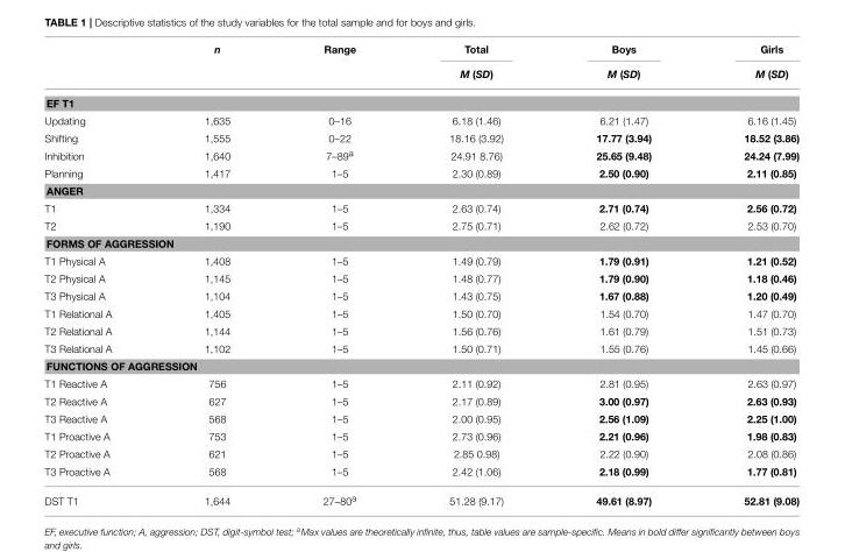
<table><thead><tr><td rowspan="2"></td><td rowspan="2">n</td><td rowspan="2">Range</td><td rowspan="2">Total M (SD)</td><td rowspan="2">Boys M (SD)</td><td rowspan="2">Girls M (SD)</td></tr><tr></tr></thead><tbody><tr><td colspan="6">EF T1</td></tr><tr><td>Updating</td><td>1,635</td><td>0–16</td><td>6.18 (1.46)</td><td>6.21 (1.47)</td><td>6.16 (1.45)</td></tr><tr><td>Shifting</td><td>1,555</td><td>0–22</td><td>18.16 (3.92)</td><td>17.77 (3.94)</td><td>18.52 (3.86)</td></tr><tr><td>Inhibition</td><td>1,640</td><td>7–89<sup>a</sup></td><td>24.91 8.76)</td><td>25.65 (9.48)</td><td>24.24 (7.99)</td></tr><tr><td>Planning</td><td>1,417</td><td>1–5</td><td>2.30 (0.89)</td><td>2.50 (0.90)</td><td>2.11 (0.85)</td></tr><tr><td colspan="6">ANGER</td></tr><tr><td>T1</td><td>1,334</td><td>1–5</td><td>2.63 (0.74)</td><td>2.71 (0.74)</td><td>2.56 (0.72)</td></tr><tr><td>T2</td><td>1,190</td><td>1–5</td><td>2.75 (0.71)</td><td>2.62 (0.72)</td><td>2.53 (0.70)</td></tr><tr><td colspan="6">FORMS OF AGGRESSION</td></tr><tr><td>T1 Physical A</td><td>1,408</td><td>1–5</td><td>1.49 (0.79)</td><td>1.79 (0.91)</td><td>1.21 (0.52)</td></tr><tr><td>T2 Physical A</td><td>1,145</td><td>1–5</td><td>1.48 (0.77)</td><td>1.79 (0.90)</td><td>1.18 (0.46)</td></tr><tr><td>T3 Physical A</td><td>1,104</td><td>1–5</td><td>1.43 (0.75)</td><td>1.67 (0.88)</td><td>1.20 (0.49)</td></tr><tr><td>T1 Relational A</td><td>1,405</td><td>1–5</td><td>1.50 (0.70)</td><td>1.54 (0.70)</td><td>1.47 (0.70)</td></tr><tr><td>T2 Relational A</td><td>1,144</td><td>1–5</td><td>1.56 (0.76)</td><td>1.61 (0.79)</td><td>1.51 (0.73)</td></tr><tr><td>T3 Relational A</td><td>1,102</td><td>1–5</td><td>1.50 (0.71)</td><td>1.55 (0.76)</td><td>1.45 (0.66)</td></tr><tr><td colspan="6">FUNCTIONS OF AGGRESSION</td></tr><tr><td>T1 Reactive A</td><td>756</td><td>1–5</td><td>2.11 (0.92)</td><td>2.81 (0.95)</td><td>2.63 (0.97)</td></tr><tr><td>T2 Reactive A</td><td>627</td><td>1–5</td><td>2.17 (0.89)</td><td>3.00 (0.97)</td><td>2.63 (0.93)</td></tr><tr><td>T3 Reactive A</td><td>568</td><td>1–5</td><td>2.00 (0.95)</td><td>2.56 (1.09)</td><td>2.25 (1.00)</td></tr><tr><td>T1 Proactive A</td><td>753</td><td>1–5</td><td>2.73 (0.96)</td><td>2.21 (0.96)</td><td>1.98 (0.83)</td></tr><tr><td>T2 Proactive A</td><td>621</td><td>1–5</td><td>2.85 0.98)</td><td>2.22 (0.90)</td><td>2.08 (0.86)</td></tr><tr><td>T3 Proactive A</td><td>568</td><td>1–5</td><td>2.42 (1.06)</td><td>2.18 (0.99)</td><td>1.77 (0.81)</td></tr><tr><td>DST T1</td><td>1,644</td><td>27–80<sup>a</sup></td><td>51.28 (9.17)</td><td>49.61 (8.97)</td><td>52.81 (9.08)</td></tr></tbody></table>